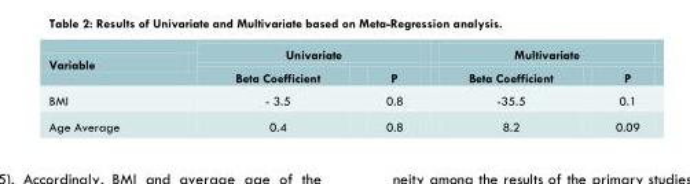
<table><thead><tr><td rowspan="2">Variable</td><td colspan="2">Univariate</td><td colspan="2">Multivariate</td></tr><tr><td>Beta Coefficient</td><td>P</td><td>Beta Coefficient</td><td>P</td></tr></thead><tbody><tr><td>BMI</td><td>- 3.5</td><td>0.8</td><td>-35.5</td><td>0.1</td></tr><tr><td>Age Average</td><td>0.4</td><td>0.8</td><td>8.2</td><td>0.09</td></tr></tbody></table>